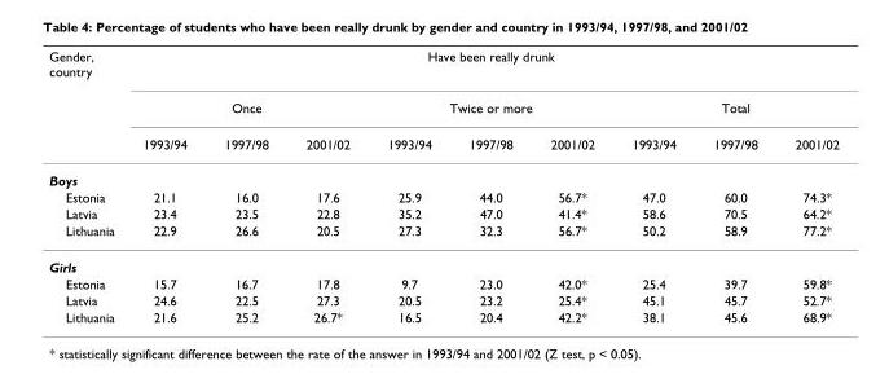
<table><thead><tr><td rowspan="3">Gender, country</td><td colspan="9">Have been really drunk</td></tr><tr><td colspan="3">Once</td><td colspan="3">Twice or more</td><td colspan="3">Total</td></tr><tr><td>1993/94</td><td>1997/98</td><td>2001/02</td><td>1993/94</td><td>1997/98</td><td>2001/02</td><td>1993/94</td><td>1997/98</td><td>2001/02</td></tr></thead><tbody><tr><td colspan="10">Boys</td></tr><tr><td>Estonia</td><td>21.1</td><td>16.0</td><td>17.6</td><td>25.9</td><td>44.0</td><td>56.7*</td><td>47.0</td><td>60.0</td><td>74.3*</td></tr><tr><td>Latvia</td><td>23.4</td><td>23.5</td><td>22.8</td><td>35.2</td><td>47.0</td><td>41.4*</td><td>58.6</td><td>70.5</td><td>64.2*</td></tr><tr><td>Lithuania</td><td>22.9</td><td>26.6</td><td>20.5</td><td>27.3</td><td>32.3</td><td>56.7*</td><td>50.2</td><td>58.9</td><td>77.2*</td></tr><tr><td colspan="10">Girls</td></tr><tr><td>Estonia</td><td>15.7</td><td>16.7</td><td>17.8</td><td>9.7</td><td>23.0</td><td>42.0*</td><td>25.4</td><td>39.7</td><td>59.8*</td></tr><tr><td>Latvia</td><td>24.6</td><td>22.5</td><td>27.3</td><td>20.5</td><td>23.2</td><td>25.4*</td><td>45.1</td><td>45.7</td><td>52.7*</td></tr><tr><td>Lithuania</td><td>21.6</td><td>25.2</td><td>26.7*</td><td>16.5</td><td>20.4</td><td>42.2*</td><td>38.1</td><td>45.6</td><td>68.9*</td></tr></tbody></table>